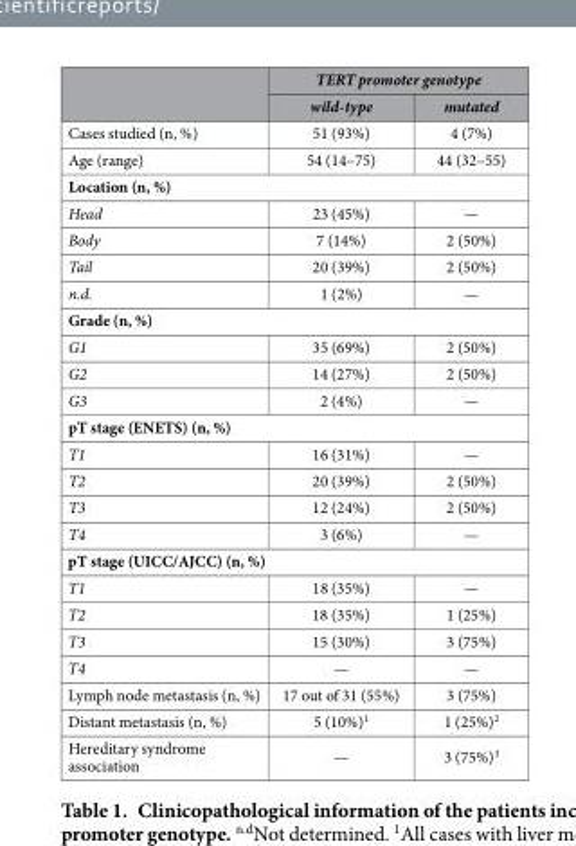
<table><thead><tr><td rowspan="2"></td><td colspan="2">TERT promoter genotype</td></tr><tr><td>wild-type</td><td>mutated</td></tr></thead><tbody><tr><td>Cases studied (n, %)</td><td>51 (93%)</td><td>4 (7%)</td></tr><tr><td>Age (range)</td><td>54 (14–75)</td><td>44 (32–55)</td></tr><tr><td colspan="3">Location (n, %)</td></tr><tr><td>Head</td><td>23 (45%)</td><td>—</td></tr><tr><td>Body</td><td>7 (14%)</td><td>2 (50%)</td></tr><tr><td>Tail</td><td>20 (39%)</td><td>2 (50%)</td></tr><tr><td>n.d.</td><td>1 (2%)</td><td>—</td></tr><tr><td colspan="3">Grade (n, %)</td></tr><tr><td>G1</td><td>35 (69%)</td><td>2 (50%)</td></tr><tr><td>G2</td><td>14 (27%)</td><td>2 (50%)</td></tr><tr><td>G3</td><td>2 (4%)</td><td>—</td></tr><tr><td colspan="3">pT stage (ENETS) (n, %)</td></tr><tr><td>T1</td><td>16 (31%)</td><td>—</td></tr><tr><td>T2</td><td>20 (39%)</td><td>2 (50%)</td></tr><tr><td>T3</td><td>12 (24%)</td><td>2 (50%)</td></tr><tr><td>T4</td><td>3 (6%)</td><td>—</td></tr><tr><td colspan="3">pT stage (UICC/AJCC) (n, %)</td></tr><tr><td>T1</td><td>18 (35%)</td><td>—</td></tr><tr><td>T2</td><td>18 (35%)</td><td>1 (25%)</td></tr><tr><td>T3</td><td>15 (30%)</td><td>3 (75%)</td></tr><tr><td>T4</td><td>—</td><td>—</td></tr><tr><td>Lymph node metastasis (n, %)</td><td>17 out of 31 (55%)</td><td>3 (75%)</td></tr><tr><td>Distant metastasis (n, %)</td><td>5 (10%)<sup>1</sup></td><td>1 (25%)<sup>2</sup></td></tr><tr><td>Hereditary syndrome association</td><td>—</td><td>3 (75%)<sup>3</sup></td></tr></tbody></table>